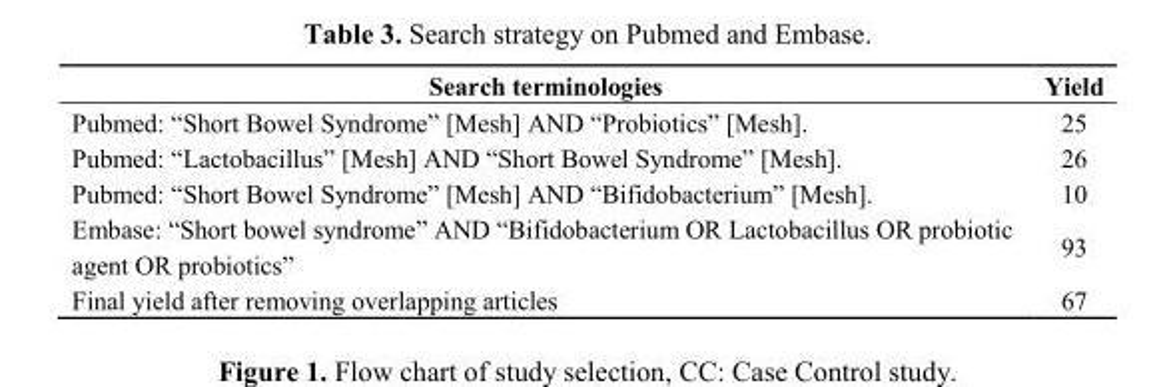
<table><thead><tr><td>Search terminologies</td><td>Yield</td></tr></thead><tbody><tr><td>Pubmed: ―Short Bowel Syndrome‖ [Mesh] AND ―Probiotics‖ [Mesh].</td><td>25</td></tr><tr><td>Pubmed: ―Lactobacillus‖ [Mesh] AND ―Short Bowel Syndrome‖ [Mesh].</td><td>26</td></tr><tr><td>Pubmed: ―Short Bowel Syndrome‖ [Mesh] AND ―Bifidobacterium‖ [Mesh].</td><td>10</td></tr><tr><td>Embase: ―Short bowel syndrome‖ AND ―Bifidobacterium OR Lactobacillus OR probiotic agent OR probiotics‖</td><td>93</td></tr><tr><td>Final yield after removing overlapping articles</td><td>67</td></tr></tbody></table>